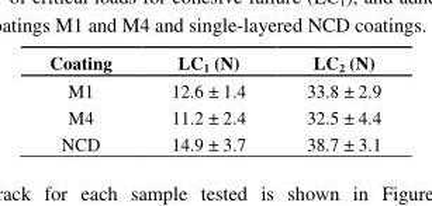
<table><thead><tr><td>Coating</td><td>LC<sub>1</sub> (N)</td><td>LC<sub>2</sub> (N)</td></tr></thead><tbody><tr><td>M1</td><td>12.6 ± 1.4</td><td>33.8 ± 2.9</td></tr><tr><td>M4</td><td>11.2 ± 2.4</td><td>32.5 ± 4.4</td></tr><tr><td>NCD</td><td>14.9 ± 3.7</td><td>38.7 ± 3.1</td></tr></tbody></table>